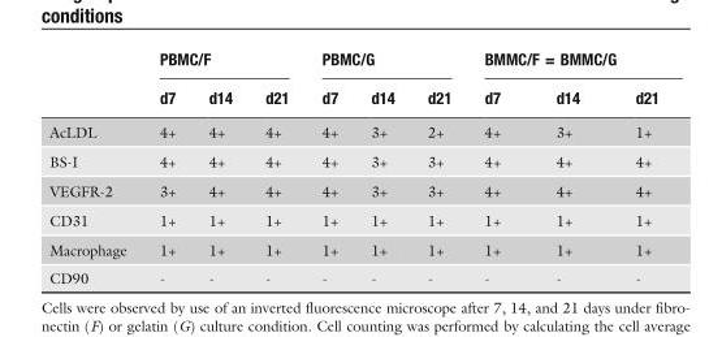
<table><thead><tr><td rowspan="2"></td><td colspan="3">PBMC/F</td><td colspan="3">PBMC/G</td><td colspan="3">BMMC/F = BMMC/G</td></tr><tr><td>d7</td><td>d14</td><td>d21</td><td>d7</td><td>d14</td><td>d21</td><td>d7</td><td>d14</td><td>d21</td></tr></thead><tbody><tr><td>AcLDL</td><td>4+</td><td>4+</td><td>4+</td><td>4+</td><td>3+</td><td>2+</td><td>4+</td><td>3+</td><td>1+</td></tr><tr><td>BS-I</td><td>4+</td><td>4+</td><td>4+</td><td>4+</td><td>3+</td><td>3+</td><td>4+</td><td>4+</td><td>4+</td></tr><tr><td>VEGFR-2</td><td>3+</td><td>4+</td><td>4+</td><td>4+</td><td>3+</td><td>3+</td><td>4+</td><td>4+</td><td>4+</td></tr><tr><td>CD31</td><td>1+</td><td>1+</td><td>1+</td><td>1+</td><td>1+</td><td>1+</td><td>1+</td><td>1+</td><td>1+</td></tr><tr><td>Macrophage</td><td>1+</td><td>1+</td><td>1+</td><td>1+</td><td>1+</td><td>1+</td><td>1+</td><td>1+</td><td>1+</td></tr><tr><td>CD90</td><td>-</td><td>-</td><td>-</td><td>-</td><td>-</td><td>-</td><td>-</td><td>-</td><td>-</td></tr></tbody></table>